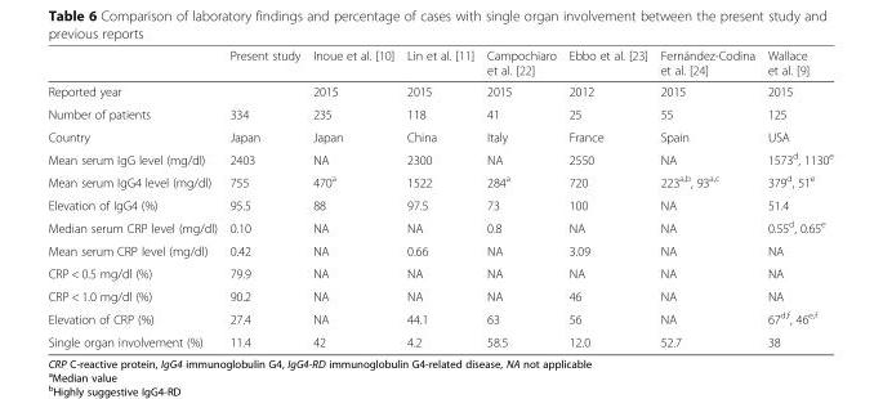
<table><thead><tr><td></td><td>Present study</td><td>Inoue et al. [10]</td><td>Lin et al. [11]</td><td>Campochiaro et al. [22]</td><td>Ebbo et al. [23]</td><td>Fernández-Codina et al. [24]</td><td>Wallace et al. [9]</td></tr></thead><tbody><tr><td>Reported year</td><td></td><td>2015</td><td>2015</td><td>2015</td><td>2012</td><td>2015</td><td>2015</td></tr><tr><td>Number of patients</td><td>334</td><td>235</td><td>118</td><td>41</td><td>25</td><td>55</td><td>125</td></tr><tr><td>Country</td><td>Japan</td><td>Japan</td><td>China</td><td>Italy</td><td>France</td><td>Spain</td><td>USA</td></tr><tr><td>Mean serum IgG level (mg/dl)</td><td>2403</td><td>NA</td><td>2300</td><td>NA</td><td>2550</td><td>NA</td><td>1573<sup>d</sup>, 1130<sup>e</sup></td></tr><tr><td>Mean serum IgG4 level (mg/dl)</td><td>755</td><td>470<sup>a</sup></td><td>1522</td><td>284<sup>a</sup></td><td>720</td><td>223<sup>a,b</sup>, 93<sup>a,c</sup></td><td>379<sup>d</sup>, 51<sup>e</sup></td></tr><tr><td>Elevation of IgG4 (%)</td><td>95.5</td><td>88</td><td>97.5</td><td>73</td><td>100</td><td>NA</td><td>51.4</td></tr><tr><td>Median serum CRP level (mg/dl)</td><td>0.10</td><td>NA</td><td>NA</td><td>0.8</td><td>NA</td><td>NA</td><td>0.55<sup>d</sup>, 0.65<sup>e</sup></td></tr><tr><td>Mean serum CRP level (mg/dl)</td><td>0.42</td><td>NA</td><td>0.66</td><td>NA</td><td>3.09</td><td>NA</td><td>NA</td></tr><tr><td>CRP &lt; 0.5 mg/dl (%)</td><td>79.9</td><td>NA</td><td>NA</td><td>NA</td><td>NA</td><td>NA</td><td>NA</td></tr><tr><td>CRP &lt; 1.0 mg/dl (%)</td><td>90.2</td><td>NA</td><td>NA</td><td>NA</td><td>46</td><td>NA</td><td>NA</td></tr><tr><td>Elevation of CRP (%)</td><td>27.4</td><td>NA</td><td>44.1</td><td>63</td><td>56</td><td>NA</td><td>67<sup>d,f</sup>, 46<sup>e,f</sup></td></tr><tr><td>Single organ involvement (%)</td><td>11.4</td><td>42</td><td>4.2</td><td>58.5</td><td>12.0</td><td>52.7</td><td>38</td></tr></tbody></table>